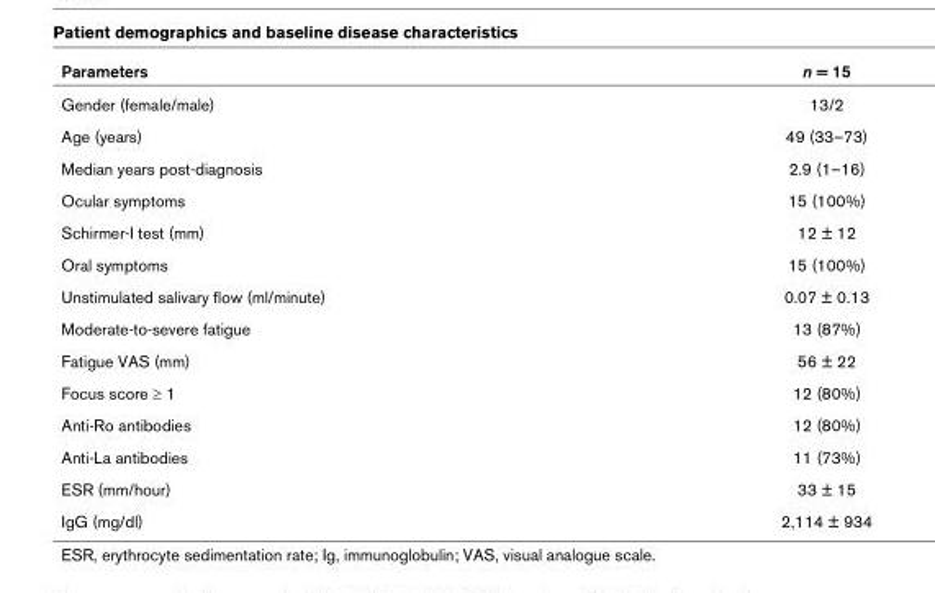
<table><thead><tr><td>Parameters</td><td>n = 15</td></tr></thead><tbody><tr><td>Gender (female/male)</td><td>13/2</td></tr><tr><td>Age (years)</td><td>49 (33–73)</td></tr><tr><td>Median years post-diagnosis</td><td>2.9 (1–16)</td></tr><tr><td>Ocular symptoms</td><td>15 (100%)</td></tr><tr><td>Schirmer-I test (mm)</td><td>12 ± 12</td></tr><tr><td>Oral symptoms</td><td>15 (100%)</td></tr><tr><td>Unstimulated salivary flow (ml/minute)</td><td>0.07 ± 0.13</td></tr><tr><td>Moderate-to-severe fatigue</td><td>13 (87%)</td></tr><tr><td>Fatigue VAS (mm)</td><td>56 ± 22</td></tr><tr><td>Focus score ≥ 1</td><td>12 (80%)</td></tr><tr><td>Anti-Ro antibodies</td><td>12 (80%)</td></tr><tr><td>Anti-La antibodies</td><td>11 (73%)</td></tr><tr><td>ESR (mm/hour)</td><td>33 ± 15</td></tr><tr><td>IgG (mg/dl)</td><td>2,114 ± 934</td></tr></tbody></table>